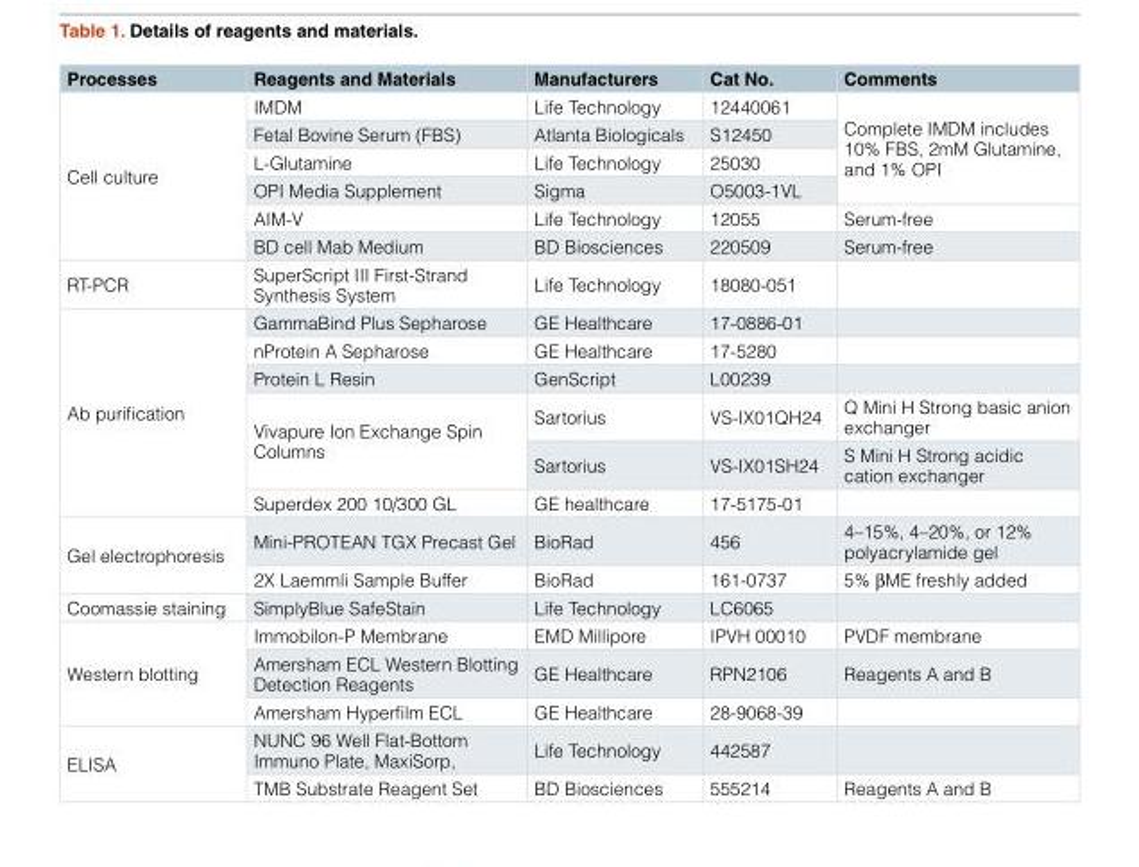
<table><thead><tr><td>Processes</td><td>Reagents and Materials</td><td>Manufacturers</td><td>Cat No.</td><td>Comments</td></tr></thead><tbody><tr><td rowspan="6">Cell culture</td><td>IMDM</td><td>Life Technology</td><td>12440061</td><td rowspan="4">Complete IMDM includes 10% FBS, 2mM Glutamine, and 1% OPI</td></tr><tr><td>Fetal Bovine Serum (FBS)</td><td>Atlanta Biologicals</td><td>S12450</td></tr><tr><td>L-Glutamine</td><td>Life Technology</td><td>25030</td></tr><tr><td>OPI Media Supplement</td><td>Sigma</td><td>O5003-1VL</td></tr><tr><td>AIM-V</td><td>Life Technology</td><td>12055</td><td>Serum-free</td></tr><tr><td>BD cell Mab Medium</td><td>BD Biosciences</td><td>220509</td><td>Serum-free</td></tr><tr><td>RT-PCR</td><td>SuperScript III First-Strand Synthesis System</td><td>Life Technology</td><td>18080-051</td><td></td></tr><tr><td rowspan="6">Ab purification</td><td>GammaBind Plus Sepharose</td><td>GE Healthcare</td><td>17-0886-01</td><td></td></tr><tr><td>nProtein A Sepharose</td><td>GE Healthcare</td><td>17-5280</td><td></td></tr><tr><td>Protein L Resin</td><td>GenScript</td><td>L00239</td><td></td></tr><tr><td rowspan="2">Vivapure Ion Exchange Spin Columns</td><td>Sartorius</td><td>VS-IX01QH24</td><td>Q Mini H Strong basic anion exchanger</td></tr><tr><td>Sartorius</td><td>VS-IX01SH24</td><td>S Mini H Strong acidic cation exchanger</td></tr><tr><td>Superdex 200 10/300 GL</td><td>GE healthcare</td><td>17-5175-01</td><td></td></tr><tr><td rowspan="2">Gel electrophoresis</td><td>Mini-PROTEAN TGX Precast Gel</td><td>BioRad</td><td>456</td><td>4–15%, 4–20%, or 12% polyacrylamide gel</td></tr><tr><td>2X Laemmli Sample Buffer</td><td>BioRad</td><td>161-0737</td><td>5% βME freshly added</td></tr><tr><td>Coomassie staining</td><td>SimplyBlue SafeStain</td><td>Life Technology</td><td>LC6065</td><td></td></tr><tr><td rowspan="3">Western blotting</td><td>Immobilon-P Membrane</td><td>EMD Millipore</td><td>IPVH 00010</td><td>PVDF membrane</td></tr><tr><td>Amersham ECL Western Blotting Detection Reagents</td><td>GE Healthcare</td><td>RPN2106</td><td>Reagents A and B</td></tr><tr><td>Amersham Hyperfilm ECL</td><td>GE Healthcare</td><td>28-9068-39</td><td></td></tr><tr><td rowspan="2">ELISA</td><td>NUNC 96 Well Flat-Bottom Immuno Plate, MaxiSorp,</td><td>Life Technology</td><td>442587</td><td></td></tr><tr><td>TMB Substrate Reagent Set</td><td>BD Biosciences</td><td>555214</td><td>Reagents A and B</td></tr></tbody></table>